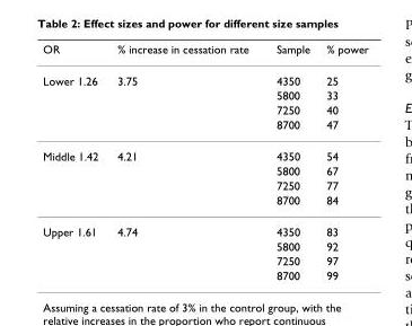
<table><thead><tr><td>OR</td><td>% increase in cessation rate</td><td>Sample</td><td>% power</td></tr></thead><tbody><tr><td rowspan="4">Lower 1.26</td><td>3.75</td><td>4350</td><td>25</td></tr><tr><td></td><td>5800</td><td>33</td></tr><tr><td></td><td>7250</td><td>40</td></tr><tr><td></td><td>8700</td><td>47</td></tr><tr><td rowspan="4">Middle 1.42</td><td>4.21</td><td>4350</td><td>54</td></tr><tr><td></td><td>5800</td><td>67</td></tr><tr><td></td><td>7250</td><td>77</td></tr><tr><td></td><td>8700</td><td>84</td></tr><tr><td rowspan="4">Upper 1.61</td><td>4.74</td><td>4350</td><td>83</td></tr><tr><td></td><td>5800</td><td>92</td></tr><tr><td></td><td>7250</td><td>97</td></tr><tr><td></td><td>8700</td><td>99</td></tr></tbody></table>